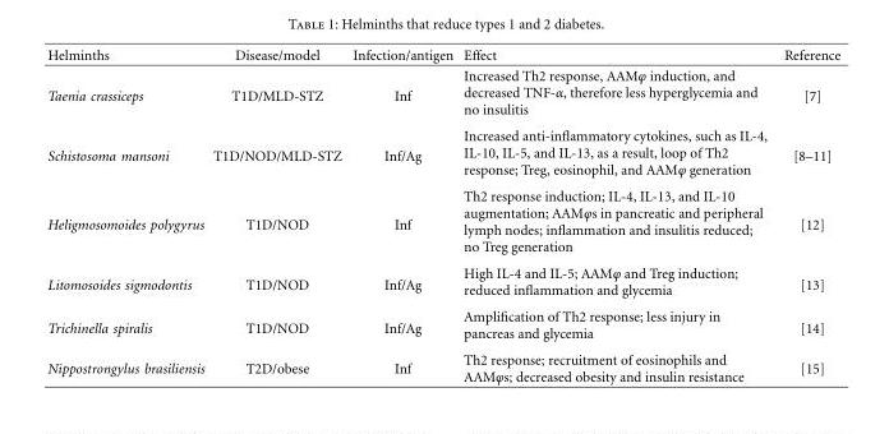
<table><thead><tr><td>Helminths</td><td>Disease/model</td><td>Infection/antigen</td><td>Effect</td><td>Reference</td></tr></thead><tbody><tr><td>Taenia crassiceps</td><td>T1D/MLD-STZ</td><td>Inf</td><td>Increased Th2 response, AAMϕ induction, and decreased TNF-α, therefore less hyperglycemia and no insulitis</td><td>[7]</td></tr><tr><td>Schistosoma mansoni</td><td>T1D/NOD/MLD-STZ</td><td>Inf/Ag</td><td>Increased anti-inflammatory cytokines, such as IL-4, IL-10, IL-5, and IL-13, as a result, loop of Th2 response; Treg, eosinophil, and AAMϕ generation</td><td>[8–11]</td></tr><tr><td>Heligmosomoides polygyrus</td><td>T1D/NOD</td><td>Inf</td><td>Th2 response induction; IL-4, IL-13, and IL-10 augmentation; AAMϕs in pancreatic and peripheral lymph nodes; inflammation and insulitis reduced; no Treg generation</td><td>[12]</td></tr><tr><td>Litomosoides sigmodontis</td><td>T1D/NOD</td><td>Inf/Ag</td><td>High IL-4 and IL-5; AAMϕ and Treg induction; reduced inflammation and glycemia</td><td>[13]</td></tr><tr><td>Trichinella spiralis</td><td>T1D/NOD</td><td>Inf/Ag</td><td>Amplification of Th2 response; less injury in pancreas and glycemia</td><td>[14]</td></tr><tr><td>Nippostrongylus brasiliensis</td><td>T2D/obese</td><td>Inf</td><td>Th2 response; recruitment of eosinophils and AAMϕs; decreased obesity and insulin resistance</td><td>[15]</td></tr></tbody></table>